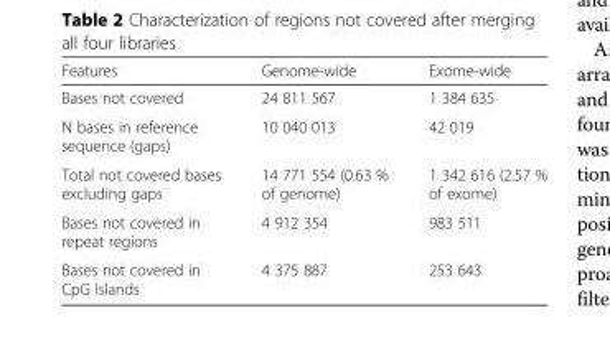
<table><thead><tr><td>Features</td><td>Genome-wide</td><td>Exome-wide</td></tr></thead><tbody><tr><td>Bases not covered</td><td>24 811 567</td><td>1 384 635</td></tr><tr><td>N bases in reference sequence (gaps)</td><td>10 040 013</td><td>42 019</td></tr><tr><td>Total not covered bases excluding gaps</td><td>14 771 554 (0.63 % of genome)</td><td>1 342 616 (2.57 % of exome)</td></tr><tr><td>Bases not covered in repeat regions</td><td>4 912 354</td><td>983 511</td></tr><tr><td>Bases not covered in CpG Islands</td><td>4 375 887</td><td>253 643</td></tr></tbody></table>